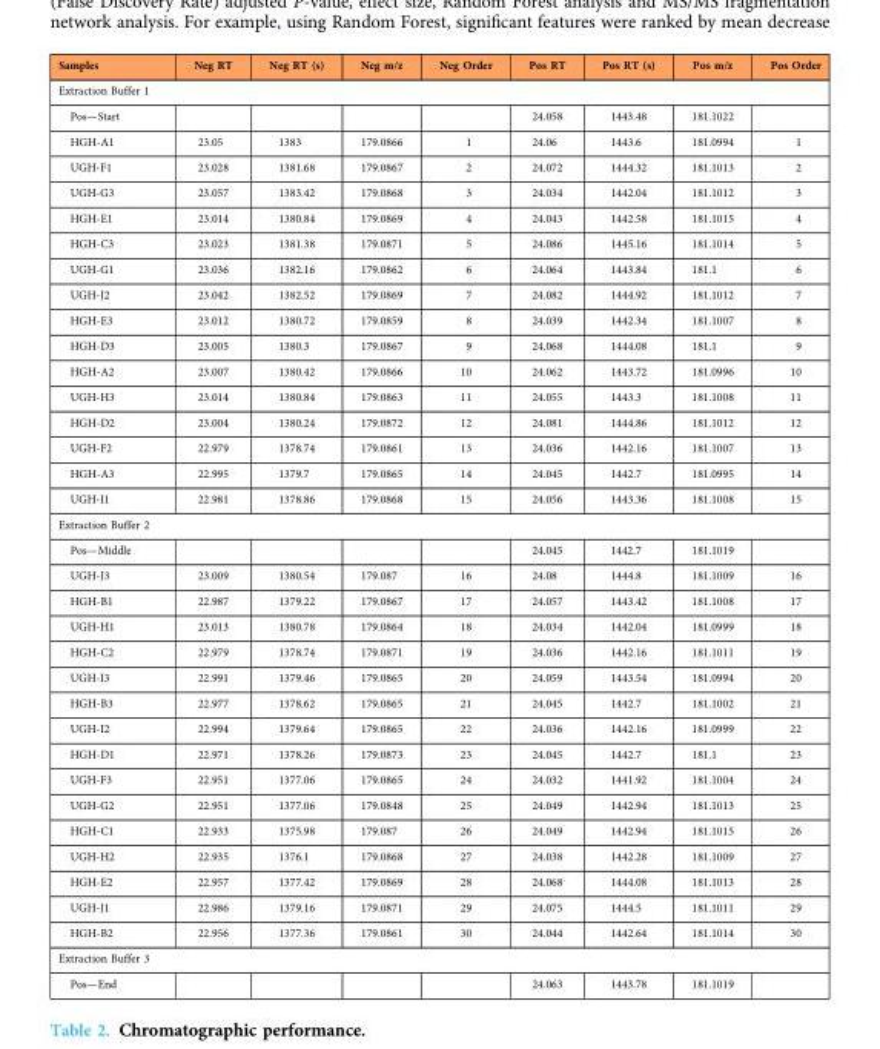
<table><thead><tr><td>Samples</td><td>Neg RT</td><td>Neg RT (s)</td><td>Neg m/z</td><td>Neg Order</td><td>Pos RT</td><td>Pos RT (s)</td><td>Pos m/z</td><td>Pos Order</td></tr></thead><tbody><tr><td colspan="9">Extraction Buffer 1</td></tr><tr><td>Pos—Start</td><td></td><td></td><td></td><td></td><td>24.058</td><td>1443.48</td><td>181.1022</td><td></td></tr><tr><td>HGH-A1</td><td>23.05</td><td>1383</td><td>179.0866</td><td>1</td><td>24.06</td><td>1443.6</td><td>181.0994</td><td>1</td></tr><tr><td>UGH-F1</td><td>23.028</td><td>1381.68</td><td>179.0867</td><td>2</td><td>24.072</td><td>1444.32</td><td>181.1013</td><td>2</td></tr><tr><td>UGH-G3</td><td>23.057</td><td>1383.42</td><td>179.0868</td><td>3</td><td>24.034</td><td>1442.04</td><td>181.1012</td><td>3</td></tr><tr><td>HGH-E1</td><td>23.014</td><td>1380.84</td><td>179.0869</td><td>4</td><td>24.043</td><td>1442.58</td><td>181.1015</td><td>4</td></tr><tr><td>HGH-C3</td><td>23.023</td><td>1381.38</td><td>179.0871</td><td>5</td><td>24.086</td><td>1445.16</td><td>181.1014</td><td>5</td></tr><tr><td>UGH-G1</td><td>23.036</td><td>1382.16</td><td>179.0862</td><td>6</td><td>24.064</td><td>1443.84</td><td>181.1</td><td>6</td></tr><tr><td>UGH-J2</td><td>23.042</td><td>1382.52</td><td>179.0869</td><td>7</td><td>24.082</td><td>1444.92</td><td>181.1012</td><td>7</td></tr><tr><td>HGH-E3</td><td>23.012</td><td>1380.72</td><td>179.0859</td><td>8</td><td>24.039</td><td>1442.34</td><td>181.1007</td><td>8</td></tr><tr><td>HGH-D3</td><td>23.005</td><td>1380.3</td><td>179.0867</td><td>9</td><td>24.068</td><td>1444.08</td><td>181.1</td><td>9</td></tr><tr><td>HGH-A2</td><td>23.007</td><td>1380.42</td><td>179.0866</td><td>10</td><td>24.062</td><td>1443.72</td><td>181.0996</td><td>10</td></tr><tr><td>UGH-H3</td><td>23.014</td><td>1380.84</td><td>179.0863</td><td>11</td><td>24.055</td><td>1443.3</td><td>181.1008</td><td>11</td></tr><tr><td>HGH-D2</td><td>23.004</td><td>1380.24</td><td>179.0872</td><td>12</td><td>24.081</td><td>1444.86</td><td>181.1012</td><td>12</td></tr><tr><td>UGH-F2</td><td>22.979</td><td>1378.74</td><td>179.0861</td><td>13</td><td>24.036</td><td>1442.16</td><td>181.1007</td><td>13</td></tr><tr><td>HGH-A3</td><td>22.995</td><td>1379.7</td><td>179.0865</td><td>14</td><td>24.045</td><td>1442.7</td><td>181.0995</td><td>14</td></tr><tr><td>UGH-I1</td><td>22.981</td><td>1378.86</td><td>179.0868</td><td>15</td><td>24.056</td><td>1443.36</td><td>181.1008</td><td>15</td></tr><tr><td colspan="9">Extraction Buffer 2</td></tr><tr><td>Pos—Middle</td><td></td><td></td><td></td><td></td><td>24.045</td><td>1442.7</td><td>181.1019</td><td></td></tr><tr><td>UGH-J3</td><td>23.009</td><td>1380.54</td><td>179.087</td><td>16</td><td>24.08</td><td>1444.8</td><td>181.1009</td><td>16</td></tr><tr><td>HGH-B1</td><td>22.987</td><td>1379.22</td><td>179.0867</td><td>17</td><td>24.057</td><td>1443.42</td><td>181.1008</td><td>17</td></tr><tr><td>UGH-H1</td><td>23.013</td><td>1380.78</td><td>179.0864</td><td>18</td><td>24.034</td><td>1442.04</td><td>181.0999</td><td>18</td></tr><tr><td>HGH-C2</td><td>22.979</td><td>1378.74</td><td>179.0871</td><td>19</td><td>24.036</td><td>1442.16</td><td>181.1011</td><td>19</td></tr><tr><td>UGH-I3</td><td>22.991</td><td>1379.46</td><td>179.0865</td><td>20</td><td>24.059</td><td>1443.54</td><td>181.0994</td><td>20</td></tr><tr><td>HGH-B3</td><td>22.977</td><td>1378.62</td><td>179.0865</td><td>21</td><td>24.045</td><td>1442.7</td><td>181.1002</td><td>21</td></tr><tr><td>UGH-I2</td><td>22.994</td><td>1379.64</td><td>179.0865</td><td>22</td><td>24.036</td><td>1442.16</td><td>181.0999</td><td>22</td></tr><tr><td>HGH-D1</td><td>22.971</td><td>1378.26</td><td>179.0873</td><td>23</td><td>24.045</td><td>1442.7</td><td>181.1</td><td>23</td></tr><tr><td>UGH-F3</td><td>22.951</td><td>1377.06</td><td>179.0865</td><td>24</td><td>24.032</td><td>1441.92</td><td>181.1004</td><td>24</td></tr><tr><td>UGH-G2</td><td>22.951</td><td>1377.06</td><td>179.0848</td><td>25</td><td>24.049</td><td>1442.94</td><td>181.1013</td><td>25</td></tr><tr><td>HGH-C1</td><td>22.933</td><td>1375.98</td><td>179.087</td><td>26</td><td>24.049</td><td>1442.94</td><td>181.1015</td><td>26</td></tr><tr><td>UGH-H2</td><td>22.935</td><td>1376.1</td><td>179.0868</td><td>27</td><td>24.038</td><td>1442.28</td><td>181.1009</td><td>27</td></tr><tr><td>HGH-E2</td><td>22.957</td><td>1377.42</td><td>179.0869</td><td>28</td><td>24.068</td><td>1444.08</td><td>181.1013</td><td>28</td></tr><tr><td>UGH-J1</td><td>22.986</td><td>1379.16</td><td>179.0871</td><td>29</td><td>24.075</td><td>1444.5</td><td>181.1011</td><td>29</td></tr><tr><td>HGH-B2</td><td>22.956</td><td>1377.36</td><td>179.0861</td><td>30</td><td>24.044</td><td>1442.64</td><td>181.1014</td><td>30</td></tr><tr><td colspan="9">Extraction Buffer 3</td></tr><tr><td>Pos—End</td><td></td><td></td><td></td><td></td><td>24.063</td><td>1443.78</td><td>181.1019</td><td></td></tr></tbody></table>